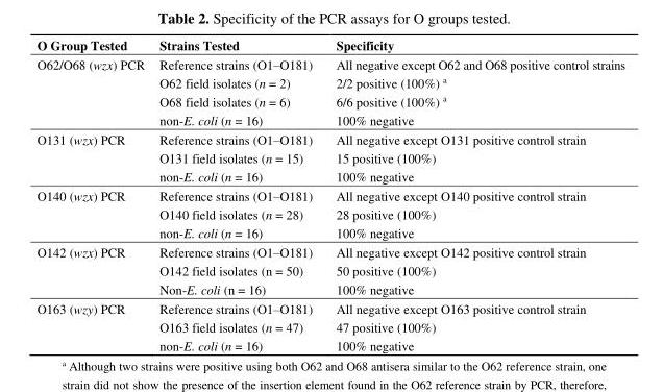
<table><thead><tr><td>O Group Tested</td><td>Strains Tested</td><td>Specificity</td></tr></thead><tbody><tr><td rowspan="4">O62/O68 (wzx) PCR</td><td>Reference strains (O1–O181)</td><td>All negative except O62 and O68 positive control strains</td></tr><tr><td>O62 field isolates (n = 2)</td><td>2/2 positive (100%) <sup>a</sup></td></tr><tr><td>O68 field isolates (n = 6)</td><td>6/6 positive (100%) <sup>a</sup></td></tr><tr><td>non-E. coli (n = 16)</td><td>100% negative</td></tr><tr><td rowspan="3">O131 (wzx) PCR</td><td>Reference strains (O1–O181)</td><td>All negative except O131 positive control strain</td></tr><tr><td>O131 field isolates (n = 15)</td><td>15 positive (100%)</td></tr><tr><td>non-E. coli (n = 16)</td><td>100% negative</td></tr><tr><td rowspan="3">O140 (wzx) PCR</td><td>Reference strains (O1–O181)</td><td>All negative except O140 positive control strain</td></tr><tr><td>O140 field isolates (n = 28)</td><td>28 positive (100%)</td></tr><tr><td>non-E. coli (n = 16)</td><td>100% negative</td></tr><tr><td rowspan="3">O142 (wzx) PCR</td><td>Reference strains (O1–O181)</td><td>All negative except O142 positive control strain</td></tr><tr><td>O142 field isolates (n = 50)</td><td>50 positive (100%)</td></tr><tr><td>Non-E. coli (n = 16)</td><td>100% negative</td></tr><tr><td rowspan="3">O163 (wzy) PCR</td><td>Reference strains (O1–O181)</td><td>All negative except O163 positive control strain</td></tr><tr><td>O163 field isolates (n = 47)</td><td>47 positive (100%)</td></tr><tr><td>non-E. coli (n = 16)</td><td>100% negative</td></tr></tbody></table>